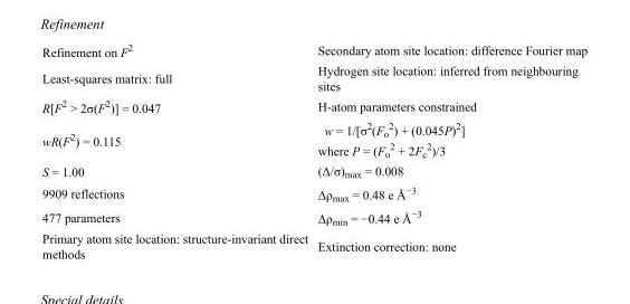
<table><tbody><tr><td>Refinement on F<sup>2</sup></td><td>Secondary atom site location: difference Fourier map</td></tr><tr><td>Least-squares matrix: full</td><td>Hydrogen site location: inferred from neighbouring sites</td></tr><tr><td>R[F<sup>2</sup> &gt; 2σ(F<sup>2</sup>)] = 0.047</td><td>H-atom parameters constrained</td></tr><tr><td>wR(F<sup>2</sup>) = 0.115</td><td>w = 1/[σ<sup>2</sup>(F<sub>o</sub> <sup>2</sup>) + (0.045P)<sup>2</sup>] where P = (F<sub>o</sub> <sup>2</sup> + 2F<sub>c</sub> <sup>2</sup>)/3</td></tr><tr><td>S = 1.00</td><td>(Δ/σ)<sub>max</sub> = 0.008</td></tr><tr><td>9909 reflections</td><td>Δρ<sub>max</sub> = 0.48 e Å<sup>−3</sup></td></tr><tr><td>477 parameters</td><td>Δρ<sub>min</sub> = −0.44 e Å<sup>−3</sup></td></tr><tr><td>Primary atom site location: structure-invariant direct methods</td><td>Extinction correction: none</td></tr></tbody></table>